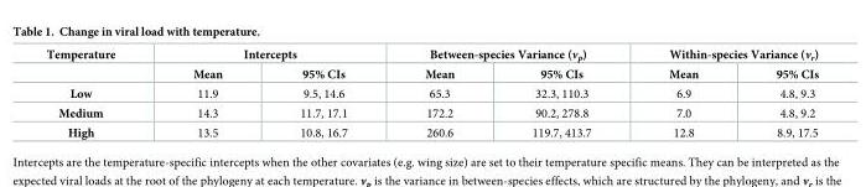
<table><thead><tr><td rowspan="2">Temperature</td><td colspan="2">Intercepts</td><td colspan="2">Between-species Variance (v<sub>p</sub>)</td><td colspan="2">Within-species Variance (v<sub>r</sub>)</td></tr><tr><td>Mean</td><td>95% CIs</td><td>Mean</td><td>95% CIs</td><td>Mean</td><td>95% CIs</td></tr></thead><tbody><tr><td>Low</td><td>11.9</td><td>9.5, 14.6</td><td>65.3</td><td>32.3, 110.3</td><td>6.9</td><td>4.8, 9.3</td></tr><tr><td>Medium</td><td>14.3</td><td>11.7, 17.1</td><td>172.2</td><td>90.2, 278.8</td><td>7.0</td><td>4.8, 9.2</td></tr><tr><td>High</td><td>13.5</td><td>10.8, 16.7</td><td>260.6</td><td>119.7, 413.7</td><td>12.8</td><td>8.9, 17.5</td></tr></tbody></table>